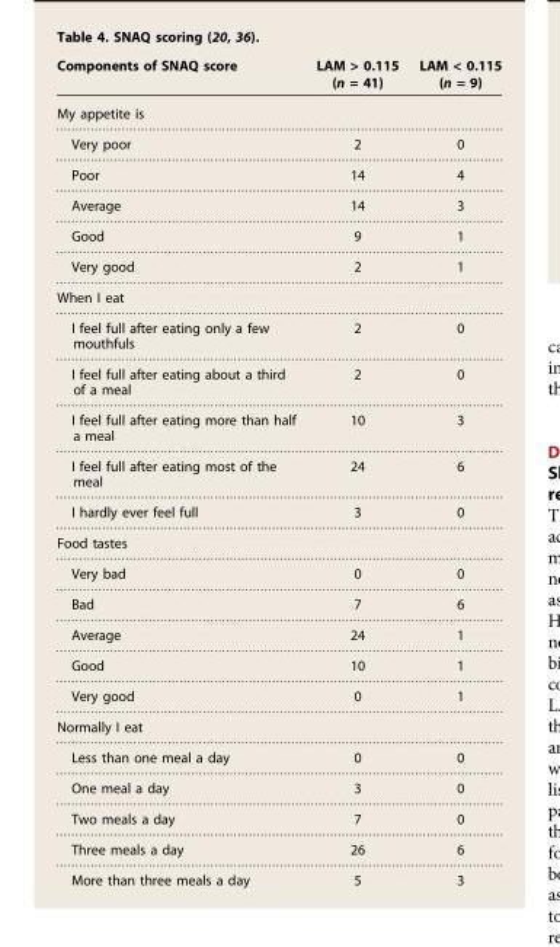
<table><thead><tr><td>Components of SNAQ score</td><td>LAM &gt; 0.115 (n = 41)</td><td>LAM &lt; 0.115 (n = 9)</td></tr></thead><tbody><tr><td colspan="3">My appetite is</td></tr><tr><td>Very poor</td><td>2</td><td>0</td></tr><tr><td>Poor</td><td>14</td><td>4</td></tr><tr><td>Average</td><td>14</td><td>3</td></tr><tr><td>Good</td><td>9</td><td>1</td></tr><tr><td>Very good</td><td>2</td><td>1</td></tr><tr><td colspan="3">When I eat</td></tr><tr><td>I feel full after eating only a few mouthfuls</td><td>2</td><td>0</td></tr><tr><td>I feel full after eating about a third of a meal</td><td>2</td><td>0</td></tr><tr><td>I feel full after eating more than half a meal</td><td>10</td><td>3</td></tr><tr><td>I feel full after eating most of the meal</td><td>24</td><td>6</td></tr><tr><td>I hardly ever feel full</td><td>3</td><td>0</td></tr><tr><td colspan="3">Food tastes</td></tr><tr><td>Very bad</td><td>0</td><td>0</td></tr><tr><td>Bad</td><td>7</td><td>6</td></tr><tr><td>Average</td><td>24</td><td>1</td></tr><tr><td>Good</td><td>10</td><td>1</td></tr><tr><td>Very good</td><td>0</td><td>1</td></tr><tr><td colspan="3">Normally I eat</td></tr><tr><td>Less than one meal a day</td><td>0</td><td>0</td></tr><tr><td>One meal a day</td><td>3</td><td>0</td></tr><tr><td>Two meals a day</td><td>7</td><td>0</td></tr><tr><td>Three meals a day</td><td>26</td><td>6</td></tr><tr><td>More than three meals a day</td><td>5</td><td>3</td></tr></tbody></table>